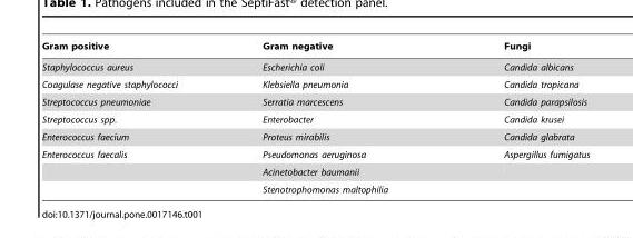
<table><thead><tr><td>Gram positive</td><td>Gram negative</td><td>Fungi</td></tr></thead><tbody><tr><td>Staphylococcus aureus</td><td>Escherichia coli</td><td>Candida albicans</td></tr><tr><td>Coagulase negative staphylococci</td><td>Klebsiella pneumonia</td><td>Candida tropicana</td></tr><tr><td>Streptococcus pneumoniae</td><td>Serratia marcescens</td><td>Candida parapsilosis</td></tr><tr><td>Streptococcus spp.</td><td>Enterobacter</td><td>Candida krusei</td></tr><tr><td>Enterococcus faecium</td><td>Proteus mirabilis</td><td>Candida glabrata</td></tr><tr><td rowspan="3">Enterococcus faecalis</td><td>Pseudomonas aeruginosa</td><td>Aspergillus fumigatus</td></tr><tr><td>Acinetobacter baumanii</td><td></td></tr><tr><td>Stenotrophomonas maltophilia</td><td></td></tr></tbody></table>